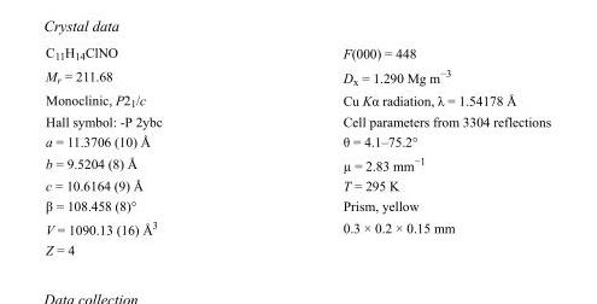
<table><tbody><tr><td>C<sub>11</sub>H<sub>14</sub>ClNO</td><td>F(000) = 448</td></tr><tr><td>M<sub>r</sub> = 211.68</td><td>D<sub>x</sub> = 1.290 Mg m<sup>−3</sup></td></tr><tr><td>Monoclinic, P2<sub>1</sub>/c</td><td>Cu Kα radiation, λ = 1.54178 Å</td></tr><tr><td>Hall symbol: -P 2ybc</td><td>Cell parameters from 3304 reflections</td></tr><tr><td>a = 11.3706 (10) Å</td><td>θ = 4.1–75.2°</td></tr><tr><td>b = 9.5204 (8) Å</td><td>µ = 2.83 mm<sup>−1</sup></td></tr><tr><td>c = 10.6164 (9) Å</td><td>T = 295 K</td></tr><tr><td>β = 108.458 (8)°</td><td>Prism, yellow</td></tr><tr><td>V = 1090.13 (16) Å<sup>3</sup></td><td>0.3 × 0.2 × 0.15 mm</td></tr><tr><td>Z = 4</td><td></td></tr></tbody></table>